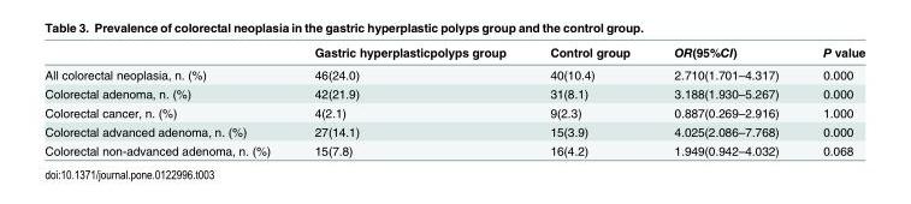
<table><thead><tr><td></td><td>Gastric hyperplasticpolyps group</td><td>Control group</td><td>OR(95%CI)</td><td>P value</td></tr></thead><tbody><tr><td>All colorectal neoplasia, n. (%)</td><td>46(24.0)</td><td>40(10.4)</td><td>2.710(1.701–4.317)</td><td>0.000</td></tr><tr><td>Colorectal adenoma, n. (%)</td><td>42(21.9)</td><td>31(8.1)</td><td>3.188(1.930–5.267)</td><td>0.000</td></tr><tr><td>Colorectal cancer, n. (%)</td><td>4(2.1)</td><td>9(2.3)</td><td>0.887(0.269–2.916)</td><td>1.000</td></tr><tr><td>Colorectal advanced adenoma, n. (%)</td><td>27(14.1)</td><td>15(3.9)</td><td>4.025(2.086–7.768)</td><td>0.000</td></tr><tr><td>Colorectal non-advanced adenoma, n. (%)</td><td>15(7.8)</td><td>16(4.2)</td><td>1.949(0.942–4.032)</td><td>0.068</td></tr></tbody></table>